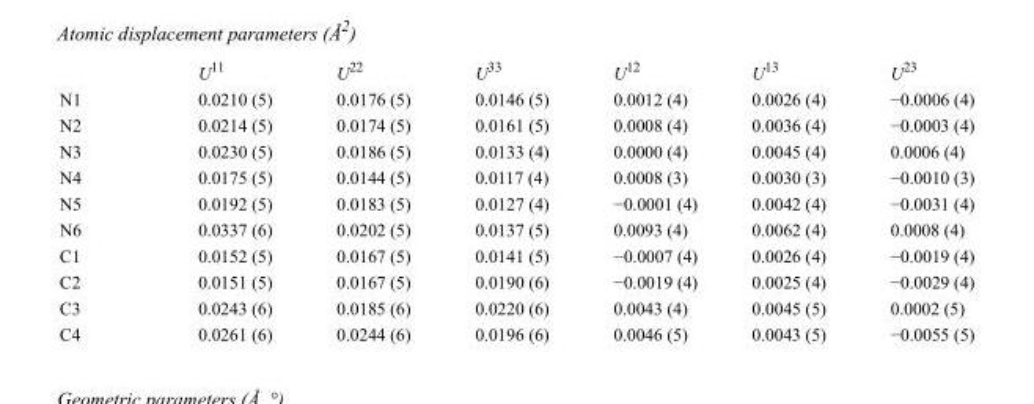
<table><thead><tr><td></td><td>U<sup>11</sup></td><td>U<sup>22</sup></td><td>U<sup>33</sup></td><td>U<sup>12</sup></td><td>U<sup>13</sup></td><td>U<sup>23</sup></td></tr></thead><tbody><tr><td>N1</td><td>0.0210 (5)</td><td>0.0176 (5)</td><td>0.0146 (5)</td><td>0.0012 (4)</td><td>0.0026 (4)</td><td>−0.0006 (4)</td></tr><tr><td>N2</td><td>0.0214 (5)</td><td>0.0174 (5)</td><td>0.0161 (5)</td><td>0.0008 (4)</td><td>0.0036 (4)</td><td>−0.0003 (4)</td></tr><tr><td>N3</td><td>0.0230 (5)</td><td>0.0186 (5)</td><td>0.0133 (4)</td><td>0.0000 (4)</td><td>0.0045 (4)</td><td>0.0006 (4)</td></tr><tr><td>N4</td><td>0.0175 (5)</td><td>0.0144 (5)</td><td>0.0117 (4)</td><td>0.0008 (3)</td><td>0.0030 (3)</td><td>−0.0010 (3)</td></tr><tr><td>N5</td><td>0.0192 (5)</td><td>0.0183 (5)</td><td>0.0127 (4)</td><td>−0.0001 (4)</td><td>0.0042 (4)</td><td>−0.0031 (4)</td></tr><tr><td>N6</td><td>0.0337 (6)</td><td>0.0202 (5)</td><td>0.0137 (5)</td><td>0.0093 (4)</td><td>0.0062 (4)</td><td>0.0008 (4)</td></tr><tr><td>C1</td><td>0.0152 (5)</td><td>0.0167 (5)</td><td>0.0141 (5)</td><td>−0.0007 (4)</td><td>0.0026 (4)</td><td>−0.0019 (4)</td></tr><tr><td>C2</td><td>0.0151 (5)</td><td>0.0167 (5)</td><td>0.0190 (6)</td><td>−0.0019 (4)</td><td>0.0025 (4)</td><td>−0.0029 (4)</td></tr><tr><td>C3</td><td>0.0243 (6)</td><td>0.0185 (6)</td><td>0.0220 (6)</td><td>0.0043 (4)</td><td>0.0045 (5)</td><td>0.0002 (5)</td></tr><tr><td>C4</td><td>0.0261 (6)</td><td>0.0244 (6)</td><td>0.0196 (6)</td><td>0.0046 (5)</td><td>0.0043 (5)</td><td>−0.0055 (5)</td></tr></tbody></table>